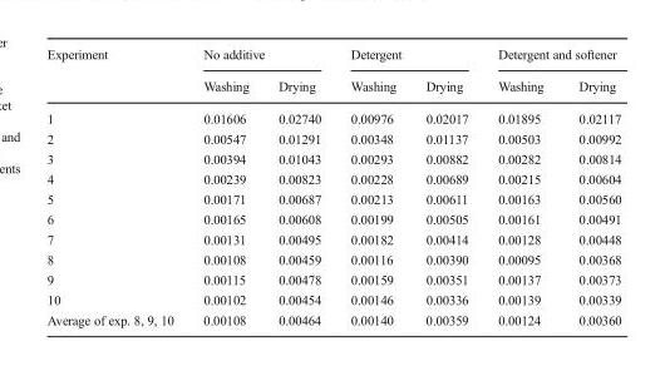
<table><thead><tr><td rowspan="2">Experiment</td><td colspan="2">No additive</td><td colspan="2">Detergent</td><td colspan="2">Detergent and softener</td></tr><tr><td>Washing</td><td>Drying</td><td>Washing</td><td>Drying</td><td>Washing</td><td>Drying</td></tr></thead><tbody><tr><td>1</td><td>0.01606</td><td>0.02740</td><td>0.00976</td><td>0.02017</td><td>0.01895</td><td>0.02117</td></tr><tr><td>2</td><td>0.00547</td><td>0.01291</td><td>0.00348</td><td>0.01137</td><td>0.00503</td><td>0.00992</td></tr><tr><td>3</td><td>0.00394</td><td>0.01043</td><td>0.00293</td><td>0.00882</td><td>0.00282</td><td>0.00814</td></tr><tr><td>4</td><td>0.00239</td><td>0.00823</td><td>0.00228</td><td>0.00689</td><td>0.00215</td><td>0.00604</td></tr><tr><td>5</td><td>0.00171</td><td>0.00687</td><td>0.00213</td><td>0.00611</td><td>0.00163</td><td>0.00560</td></tr><tr><td>6</td><td>0.00165</td><td>0.00608</td><td>0.00199</td><td>0.00505</td><td>0.00161</td><td>0.00491</td></tr><tr><td>7</td><td>0.00131</td><td>0.00495</td><td>0.00182</td><td>0.00414</td><td>0.00128</td><td>0.00448</td></tr><tr><td>8</td><td>0.00108</td><td>0.00459</td><td>0.00116</td><td>0.00390</td><td>0.00095</td><td>0.00368</td></tr><tr><td>9</td><td>0.00115</td><td>0.00478</td><td>0.00159</td><td>0.00351</td><td>0.00137</td><td>0.00373</td></tr><tr><td>10</td><td>0.00102</td><td>0.00454</td><td>0.00146</td><td>0.00336</td><td>0.00139</td><td>0.00339</td></tr><tr><td>Average of exp. 8, 9, 10</td><td>0.00108</td><td>0.00464</td><td>0.00140</td><td>0.00359</td><td>0.00124</td><td>0.00360</td></tr></tbody></table>